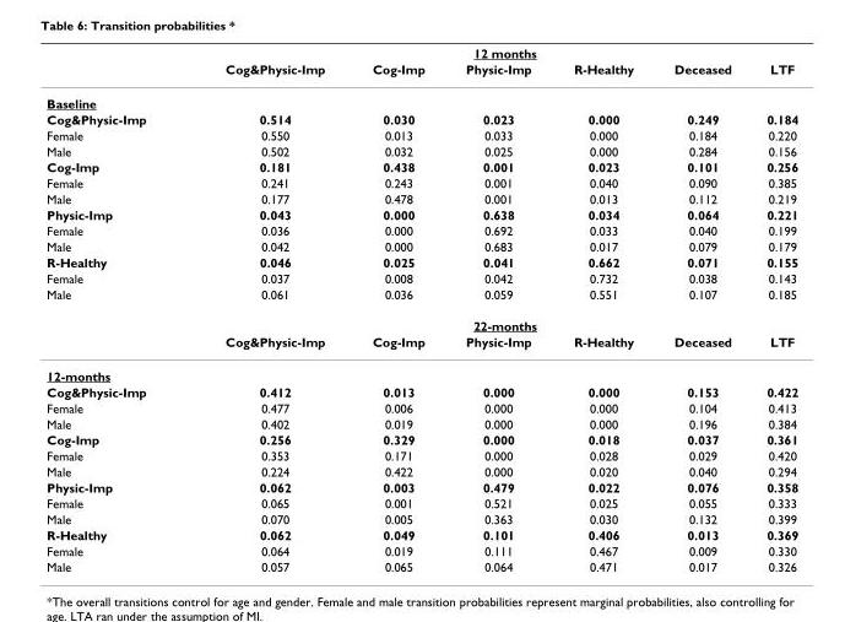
<table><thead><tr><td rowspan="2"></td><td colspan="6">12 months</td></tr><tr><td>Cog&amp;Physic-Imp</td><td>Cog-Imp</td><td>Physic-Imp</td><td>R-Healthy</td><td>Deceased</td><td>LTF</td></tr></thead><tbody><tr><td colspan="7">Baseline</td></tr><tr><td>Cog&amp;Physic-Imp</td><td>0.514</td><td>0.030</td><td>0.023</td><td>0.000</td><td>0.249</td><td>0.184</td></tr><tr><td>Female</td><td>0.550</td><td>0.013</td><td>0.033</td><td>0.000</td><td>0.184</td><td>0.220</td></tr><tr><td>Male</td><td>0.502</td><td>0.032</td><td>0.025</td><td>0.000</td><td>0.284</td><td>0.156</td></tr><tr><td>Cog-Imp</td><td>0.181</td><td>0.438</td><td>0.001</td><td>0.023</td><td>0.101</td><td>0.256</td></tr><tr><td>Female</td><td>0.241</td><td>0.243</td><td>0.001</td><td>0.040</td><td>0.090</td><td>0.385</td></tr><tr><td>Male</td><td>0.177</td><td>0.478</td><td>0.001</td><td>0.013</td><td>0.112</td><td>0.219</td></tr><tr><td>Physic-Imp</td><td>0.043</td><td>0.000</td><td>0.638</td><td>0.034</td><td>0.064</td><td>0.221</td></tr><tr><td>Female</td><td>0.036</td><td>0.000</td><td>0.692</td><td>0.033</td><td>0.040</td><td>0.199</td></tr><tr><td>Male</td><td>0.042</td><td>0.000</td><td>0.683</td><td>0.017</td><td>0.079</td><td>0.179</td></tr><tr><td>R-Healthy</td><td>0.046</td><td>0.025</td><td>0.041</td><td>0.662</td><td>0.071</td><td>0.155</td></tr><tr><td>Female</td><td>0.037</td><td>0.008</td><td>0.042</td><td>0.732</td><td>0.038</td><td>0.143</td></tr><tr><td rowspan="3">Male</td><td>0.061</td><td>0.036</td><td>0.059</td><td>0.551</td><td>0.107</td><td>0.185</td></tr><tr><td colspan="6">22-months</td></tr><tr><td>Cog&amp;Physic-Imp</td><td>Cog-Imp</td><td>Physic-Imp</td><td>R-Healthy</td><td>Deceased</td><td>LTF</td></tr><tr><td colspan="7">12-months</td></tr><tr><td>Cog&amp;Physic-Imp</td><td>0.412</td><td>0.013</td><td>0.000</td><td>0.000</td><td>0.153</td><td>0.422</td></tr><tr><td>Female</td><td>0.477</td><td>0.006</td><td>0.000</td><td>0.000</td><td>0.104</td><td>0.413</td></tr><tr><td>Male</td><td>0.402</td><td>0.019</td><td>0.000</td><td>0.000</td><td>0.196</td><td>0.384</td></tr><tr><td>Cog-Imp</td><td>0.256</td><td>0.329</td><td>0.000</td><td>0.018</td><td>0.037</td><td>0.361</td></tr><tr><td>Female</td><td>0.353</td><td>0.171</td><td>0.000</td><td>0.028</td><td>0.029</td><td>0.420</td></tr><tr><td>Male</td><td>0.224</td><td>0.422</td><td>0.000</td><td>0.020</td><td>0.040</td><td>0.294</td></tr><tr><td>Physic-Imp</td><td>0.062</td><td>0.003</td><td>0.479</td><td>0.022</td><td>0.076</td><td>0.358</td></tr><tr><td>Female</td><td>0.065</td><td>0.001</td><td>0.521</td><td>0.025</td><td>0.055</td><td>0.333</td></tr><tr><td>Male</td><td>0.070</td><td>0.005</td><td>0.363</td><td>0.030</td><td>0.132</td><td>0.399</td></tr><tr><td>R-Healthy</td><td>0.062</td><td>0.049</td><td>0.101</td><td>0.406</td><td>0.013</td><td>0.369</td></tr><tr><td>Female</td><td>0.064</td><td>0.019</td><td>0.111</td><td>0.467</td><td>0.009</td><td>0.330</td></tr><tr><td>Male</td><td>0.057</td><td>0.065</td><td>0.064</td><td>0.471</td><td>0.017</td><td>0.326</td></tr></tbody></table>